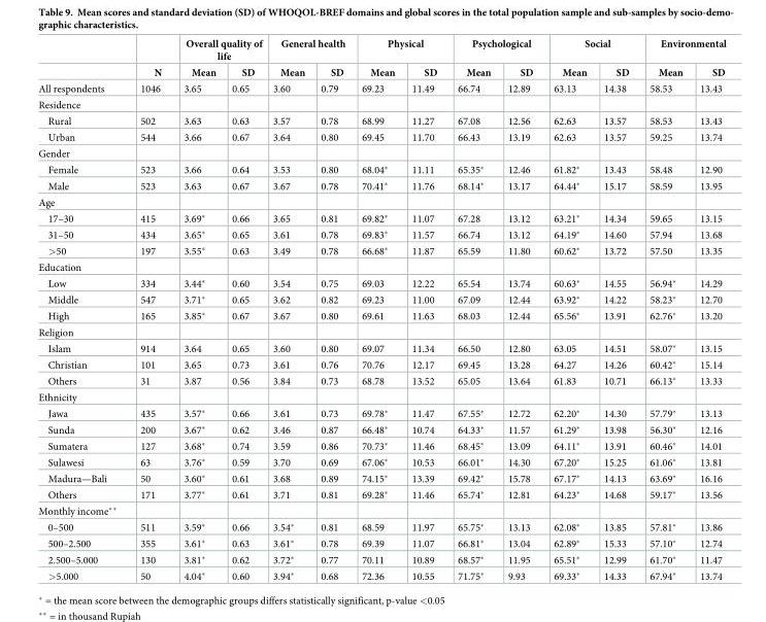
<table><thead><tr><td rowspan="2"></td><td rowspan="2">N</td><td colspan="2">Overall quality of life</td><td colspan="2">General health</td><td colspan="2">Physical</td><td colspan="2">Psychological</td><td colspan="2">Social</td><td colspan="2">Environmental</td></tr><tr><td>Mean</td><td>SD</td><td>Mean</td><td>SD</td><td>Mean</td><td>SD</td><td>Mean</td><td>SD</td><td>Mean</td><td>SD</td><td>Mean</td><td>SD</td></tr></thead><tbody><tr><td>All respondents</td><td>1046</td><td>3.65</td><td>0.65</td><td>3.60</td><td>0.79</td><td>69.23</td><td>11.49</td><td>66.74</td><td>12.89</td><td>63.13</td><td>14.38</td><td>58.53</td><td>13.43</td></tr><tr><td colspan="14">Residence</td></tr><tr><td>Rural</td><td>502</td><td>3.63</td><td>0.63</td><td>3.57</td><td>0.78</td><td>68.99</td><td>11.27</td><td>67.08</td><td>12.56</td><td>62.63</td><td>13.57</td><td>58.53</td><td>13.43</td></tr><tr><td>Urban</td><td>544</td><td>3.66</td><td>0.67</td><td>3.64</td><td>0.80</td><td>69.45</td><td>11.70</td><td>66.43</td><td>13.19</td><td>62.63</td><td>13.57</td><td>59.25</td><td>13.74</td></tr><tr><td colspan="14">Gender</td></tr><tr><td>Female</td><td>523</td><td>3.66</td><td>0.64</td><td>3.53</td><td>0.80</td><td>68.04*</td><td>11.11</td><td>65.35*</td><td>12.46</td><td>61.82*</td><td>13.43</td><td>58.48</td><td>12.90</td></tr><tr><td>Male</td><td>523</td><td>3.63</td><td>0.67</td><td>3.67</td><td>0.78</td><td>70.41*</td><td>11.76</td><td>68.14*</td><td>13.17</td><td>64.44*</td><td>15.17</td><td>58.59</td><td>13.95</td></tr><tr><td colspan="14">Age</td></tr><tr><td>17–30</td><td>415</td><td>3.69*</td><td>0.66</td><td>3.65</td><td>0.81</td><td>69.82*</td><td>11.07</td><td>67.28</td><td>13.12</td><td>63.21*</td><td>14.34</td><td>59.65</td><td>13.15</td></tr><tr><td>31–50</td><td>434</td><td>3.65*</td><td>0.65</td><td>3.61</td><td>0.78</td><td>69.83*</td><td>11.57</td><td>66.74</td><td>13.12</td><td>64.19*</td><td>14.60</td><td>57.94</td><td>13.68</td></tr><tr><td>&gt;50</td><td>197</td><td>3.55*</td><td>0.63</td><td>3.49</td><td>0.78</td><td>66.68*</td><td>11.87</td><td>65.59</td><td>11.80</td><td>60.62*</td><td>13.72</td><td>57.50</td><td>13.35</td></tr><tr><td colspan="14">Education</td></tr><tr><td>Low</td><td>334</td><td>3.44*</td><td>0.60</td><td>3.54</td><td>0.75</td><td>69.03</td><td>12.22</td><td>65.54</td><td>13.74</td><td>60.63*</td><td>14.55</td><td>56.94*</td><td>14.29</td></tr><tr><td>Middle</td><td>547</td><td>3.71*</td><td>0.65</td><td>3.62</td><td>0.82</td><td>69.23</td><td>11.00</td><td>67.09</td><td>12.44</td><td>63.92*</td><td>14.22</td><td>58.23*</td><td>12.70</td></tr><tr><td>High</td><td>165</td><td>3.85*</td><td>0.67</td><td>3.67</td><td>0.80</td><td>69.61</td><td>11.63</td><td>68.03</td><td>12.44</td><td>65.56*</td><td>13.91</td><td>62.76*</td><td>13.20</td></tr><tr><td colspan="14">Religion</td></tr><tr><td>Islam</td><td>914</td><td>3.64</td><td>0.65</td><td>3.60</td><td>0.80</td><td>69.07</td><td>11.34</td><td>66.50</td><td>12.80</td><td>63.05</td><td>14.51</td><td>58.07*</td><td>13.15</td></tr><tr><td>Christian</td><td>101</td><td>3.65</td><td>0.73</td><td>3.61</td><td>0.76</td><td>70.76</td><td>12.17</td><td>69.45</td><td>13.28</td><td>64.27</td><td>14.26</td><td>60.42*</td><td>15.14</td></tr><tr><td>Others</td><td>31</td><td>3.87</td><td>0.56</td><td>3.84</td><td>0.73</td><td>68.78</td><td>13.52</td><td>65.05</td><td>13.64</td><td>61.83</td><td>10.71</td><td>66.13*</td><td>13.33</td></tr><tr><td colspan="14">Ethnicity</td></tr><tr><td>Jawa</td><td>435</td><td>3.57*</td><td>0.66</td><td>3.61</td><td>0.73</td><td>69.78*</td><td>11.47</td><td>67.55*</td><td>12.72</td><td>62.20*</td><td>14.30</td><td>57.79*</td><td>13.13</td></tr><tr><td>Sunda</td><td>200</td><td>3.67*</td><td>0.62</td><td>3.46</td><td>0.87</td><td>66.48*</td><td>10.74</td><td>64.33*</td><td>11.57</td><td>61.29*</td><td>13.98</td><td>56.30*</td><td>12.16</td></tr><tr><td>Sumatera</td><td>127</td><td>3.68*</td><td>0.74</td><td>3.59</td><td>0.86</td><td>70.73*</td><td>11.46</td><td>68.45*</td><td>13.09</td><td>64.11*</td><td>13.91</td><td>60.46*</td><td>14.01</td></tr><tr><td>Sulawesi</td><td>63</td><td>3.76*</td><td>0.59</td><td>3.70</td><td>0.69</td><td>67.06*</td><td>10.53</td><td>66.01*</td><td>14.30</td><td>67.20*</td><td>15.25</td><td>61.06*</td><td>13.81</td></tr><tr><td>Madura—Bali</td><td>50</td><td>3.60*</td><td>0.61</td><td>3.68</td><td>0.89</td><td>74.15*</td><td>13.39</td><td>69.42*</td><td>15.78</td><td>67.17*</td><td>14.13</td><td>63.69*</td><td>16.16</td></tr><tr><td>Others</td><td>171</td><td>3.77*</td><td>0.61</td><td>3.71</td><td>0.81</td><td>69.28*</td><td>11.46</td><td>65.74*</td><td>12.81</td><td>64.23*</td><td>14.68</td><td>59.17*</td><td>13.56</td></tr><tr><td colspan="14">Monthly income**</td></tr><tr><td>0–500</td><td>511</td><td>3.59*</td><td>0.66</td><td>3.54*</td><td>0.81</td><td>68.59</td><td>11.97</td><td>65.75*</td><td>13.13</td><td>62.08*</td><td>13.85</td><td>57.81*</td><td>13.86</td></tr><tr><td>500–2.500</td><td>355</td><td>3.61*</td><td>0.63</td><td>3.61*</td><td>0.78</td><td>69.39</td><td>11.07</td><td>66.81*</td><td>13.04</td><td>62.89*</td><td>15.33</td><td>57.10*</td><td>12.74</td></tr><tr><td>2.500–5.000</td><td>130</td><td>3.81*</td><td>0.62</td><td>3.72*</td><td>0.77</td><td>70.11</td><td>10.89</td><td>68.57*</td><td>11.95</td><td>65.51*</td><td>12.99</td><td>61.70*</td><td>11.47</td></tr><tr><td>&gt;5.000</td><td>50</td><td>4.04*</td><td>0.60</td><td>3.94*</td><td>0.68</td><td>72.36</td><td>10.55</td><td>71.75*</td><td>9.93</td><td>69.33*</td><td>14.33</td><td>67.94*</td><td>13.74</td></tr></tbody></table>